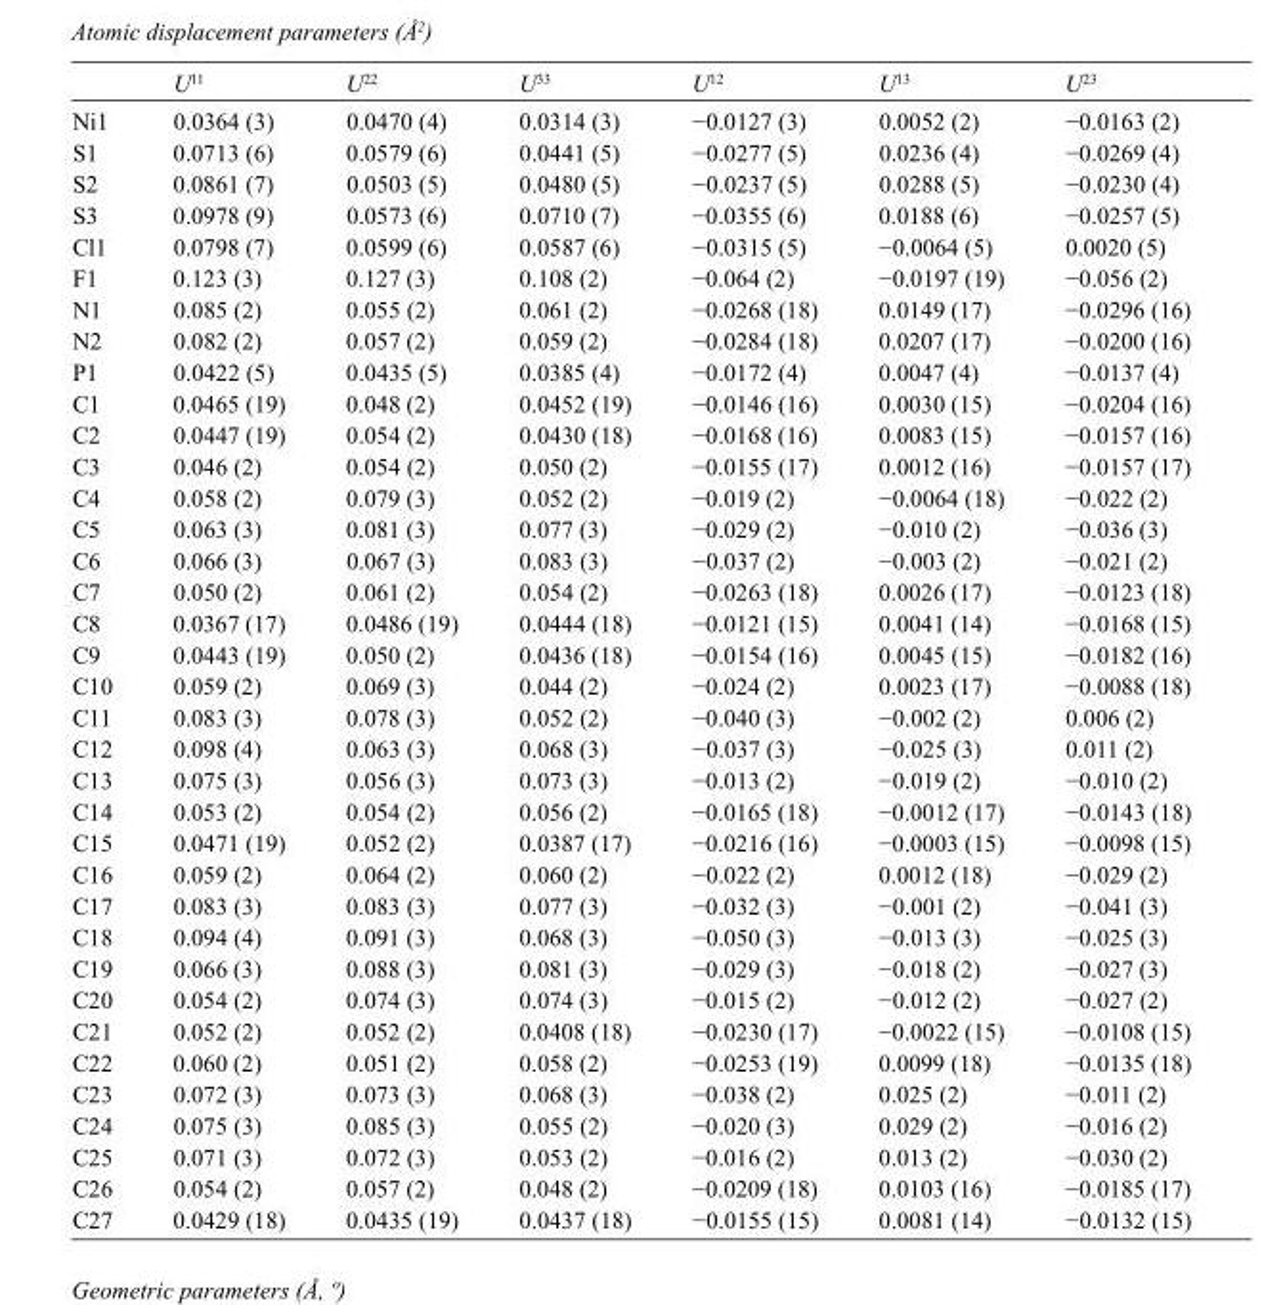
<table><thead><tr><td></td><td>U<sup>11</sup></td><td>U<sup>22</sup></td><td>U<sup>33</sup></td><td>U<sup>12</sup></td><td>U<sup>13</sup></td><td>U<sup>23</sup></td></tr></thead><tbody><tr><td>Ni1</td><td>0.0364 (3)</td><td>0.0470 (4)</td><td>0.0314 (3)</td><td>−0.0127 (3)</td><td>0.0052 (2)</td><td>−0.0163 (2)</td></tr><tr><td>S1</td><td>0.0713 (6)</td><td>0.0579 (6)</td><td>0.0441 (5)</td><td>−0.0277 (5)</td><td>0.0236 (4)</td><td>−0.0269 (4)</td></tr><tr><td>S2</td><td>0.0861 (7)</td><td>0.0503 (5)</td><td>0.0480 (5)</td><td>−0.0237 (5)</td><td>0.0288 (5)</td><td>−0.0230 (4)</td></tr><tr><td>S3</td><td>0.0978 (9)</td><td>0.0573 (6)</td><td>0.0710 (7)</td><td>−0.0355 (6)</td><td>0.0188 (6)</td><td>−0.0257 (5)</td></tr><tr><td>Cl1</td><td>0.0798 (7)</td><td>0.0599 (6)</td><td>0.0587 (6)</td><td>−0.0315 (5)</td><td>−0.0064 (5)</td><td>0.0020 (5)</td></tr><tr><td>F1</td><td>0.123 (3)</td><td>0.127 (3)</td><td>0.108 (2)</td><td>−0.064 (2)</td><td>−0.0197 (19)</td><td>−0.056 (2)</td></tr><tr><td>N1</td><td>0.085 (2)</td><td>0.055 (2)</td><td>0.061 (2)</td><td>−0.0268 (18)</td><td>0.0149 (17)</td><td>−0.0296 (16)</td></tr><tr><td>N2</td><td>0.082 (2)</td><td>0.057 (2)</td><td>0.059 (2)</td><td>−0.0284 (18)</td><td>0.0207 (17)</td><td>−0.0200 (16)</td></tr><tr><td>P1</td><td>0.0422 (5)</td><td>0.0435 (5)</td><td>0.0385 (4)</td><td>−0.0172 (4)</td><td>0.0047 (4)</td><td>−0.0137 (4)</td></tr><tr><td>C1</td><td>0.0465 (19)</td><td>0.048 (2)</td><td>0.0452 (19)</td><td>−0.0146 (16)</td><td>0.0030 (15)</td><td>−0.0204 (16)</td></tr><tr><td>C2</td><td>0.0447 (19)</td><td>0.054 (2)</td><td>0.0430 (18)</td><td>−0.0168 (16)</td><td>0.0083 (15)</td><td>−0.0157 (16)</td></tr><tr><td>C3</td><td>0.046 (2)</td><td>0.054 (2)</td><td>0.050 (2)</td><td>−0.0155 (17)</td><td>0.0012 (16)</td><td>−0.0157 (17)</td></tr><tr><td>C4</td><td>0.058 (2)</td><td>0.079 (3)</td><td>0.052 (2)</td><td>−0.019 (2)</td><td>−0.0064 (18)</td><td>−0.022 (2)</td></tr><tr><td>C5</td><td>0.063 (3)</td><td>0.081 (3)</td><td>0.077 (3)</td><td>−0.029 (2)</td><td>−0.010 (2)</td><td>−0.036 (3)</td></tr><tr><td>C6</td><td>0.066 (3)</td><td>0.067 (3)</td><td>0.083 (3)</td><td>−0.037 (2)</td><td>−0.003 (2)</td><td>−0.021 (2)</td></tr><tr><td>C7</td><td>0.050 (2)</td><td>0.061 (2)</td><td>0.054 (2)</td><td>−0.0263 (18)</td><td>0.0026 (17)</td><td>−0.0123 (18)</td></tr><tr><td>C8</td><td>0.0367 (17)</td><td>0.0486 (19)</td><td>0.0444 (18)</td><td>−0.0121 (15)</td><td>0.0041 (14)</td><td>−0.0168 (15)</td></tr><tr><td>C9</td><td>0.0443 (19)</td><td>0.050 (2)</td><td>0.0436 (18)</td><td>−0.0154 (16)</td><td>0.0045 (15)</td><td>−0.0182 (16)</td></tr><tr><td>C10</td><td>0.059 (2)</td><td>0.069 (3)</td><td>0.044 (2)</td><td>−0.024 (2)</td><td>0.0023 (17)</td><td>−0.0088 (18)</td></tr><tr><td>C11</td><td>0.083 (3)</td><td>0.078 (3)</td><td>0.052 (2)</td><td>−0.040 (3)</td><td>−0.002 (2)</td><td>0.006 (2)</td></tr><tr><td>C12</td><td>0.098 (4)</td><td>0.063 (3)</td><td>0.068 (3)</td><td>−0.037 (3)</td><td>−0.025 (3)</td><td>0.011 (2)</td></tr><tr><td>C13</td><td>0.075 (3)</td><td>0.056 (3)</td><td>0.073 (3)</td><td>−0.013 (2)</td><td>−0.019 (2)</td><td>−0.010 (2)</td></tr><tr><td>C14</td><td>0.053 (2)</td><td>0.054 (2)</td><td>0.056 (2)</td><td>−0.0165 (18)</td><td>−0.0012 (17)</td><td>−0.0143 (18)</td></tr><tr><td>C15</td><td>0.0471 (19)</td><td>0.052 (2)</td><td>0.0387 (17)</td><td>−0.0216 (16)</td><td>−0.0003 (15)</td><td>−0.0098 (15)</td></tr><tr><td>C16</td><td>0.059 (2)</td><td>0.064 (2)</td><td>0.060 (2)</td><td>−0.022 (2)</td><td>0.0012 (18)</td><td>−0.029 (2)</td></tr><tr><td>C17</td><td>0.083 (3)</td><td>0.083 (3)</td><td>0.077 (3)</td><td>−0.032 (3)</td><td>−0.001 (2)</td><td>−0.041 (3)</td></tr><tr><td>C18</td><td>0.094 (4)</td><td>0.091 (3)</td><td>0.068 (3)</td><td>−0.050 (3)</td><td>−0.013 (3)</td><td>−0.025 (3)</td></tr><tr><td>C19</td><td>0.066 (3)</td><td>0.088 (3)</td><td>0.081 (3)</td><td>−0.029 (3)</td><td>−0.018 (2)</td><td>−0.027 (3)</td></tr><tr><td>C20</td><td>0.054 (2)</td><td>0.074 (3)</td><td>0.074 (3)</td><td>−0.015 (2)</td><td>−0.012 (2)</td><td>−0.027 (2)</td></tr><tr><td>C21</td><td>0.052 (2)</td><td>0.052 (2)</td><td>0.0408 (18)</td><td>−0.0230 (17)</td><td>−0.0022 (15)</td><td>−0.0108 (15)</td></tr><tr><td>C22</td><td>0.060 (2)</td><td>0.051 (2)</td><td>0.058 (2)</td><td>−0.0253 (19)</td><td>0.0099 (18)</td><td>−0.0135 (18)</td></tr><tr><td>C23</td><td>0.072 (3)</td><td>0.073 (3)</td><td>0.068 (3)</td><td>−0.038 (2)</td><td>0.025 (2)</td><td>−0.011 (2)</td></tr><tr><td>C24</td><td>0.075 (3)</td><td>0.085 (3)</td><td>0.055 (2)</td><td>−0.020 (3)</td><td>0.029 (2)</td><td>−0.016 (2)</td></tr><tr><td>C25</td><td>0.071 (3)</td><td>0.072 (3)</td><td>0.053 (2)</td><td>−0.016 (2)</td><td>0.013 (2)</td><td>−0.030 (2)</td></tr><tr><td>C26</td><td>0.054 (2)</td><td>0.057 (2)</td><td>0.048 (2)</td><td>−0.0209 (18)</td><td>0.0103 (16)</td><td>−0.0185 (17)</td></tr><tr><td>C27</td><td>0.0429 (18)</td><td>0.0435 (19)</td><td>0.0437 (18)</td><td>−0.0155 (15)</td><td>0.0081 (14)</td><td>−0.0132 (15)</td></tr></tbody></table>